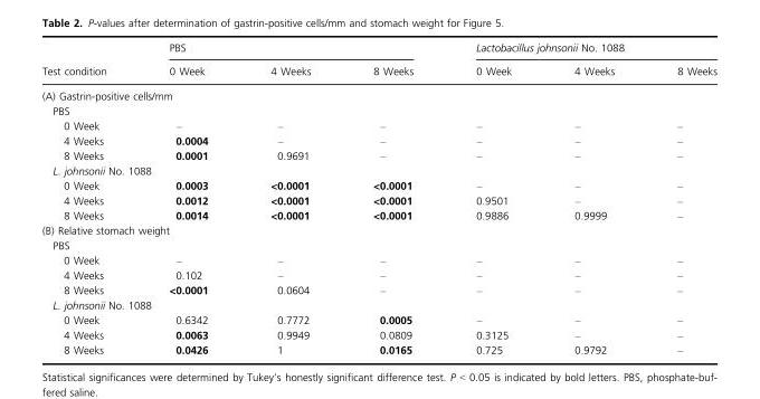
<table><thead><tr><td rowspan="2">Test condition</td><td colspan="3">PBS</td><td colspan="3">Lactobacillus johnsonii No. 1088</td></tr><tr><td>0 Week</td><td>4 Weeks</td><td>8 Weeks</td><td>0 Week</td><td>4 Weeks</td><td>8 Weeks</td></tr></thead><tbody><tr><td colspan="7">(A) Gastrin-positive cells/mm</td></tr><tr><td colspan="7">PBS</td></tr><tr><td>0 Week</td><td>–</td><td>–</td><td>–</td><td>–</td><td>–</td><td>–</td></tr><tr><td>4 Weeks</td><td>0.0004</td><td>–</td><td>–</td><td>–</td><td>–</td><td>–</td></tr><tr><td>8 Weeks</td><td>0.0001</td><td>0.9691</td><td>–</td><td>–</td><td>–</td><td>–</td></tr><tr><td colspan="7">L. johnsonii No. 1088</td></tr><tr><td>0 Week</td><td>0.0003</td><td>&lt;0.0001</td><td>&lt;0.0001</td><td>–</td><td>–</td><td>–</td></tr><tr><td>4 Weeks</td><td>0.0012</td><td>&lt;0.0001</td><td>&lt;0.0001</td><td>0.9501</td><td>–</td><td>–</td></tr><tr><td>8 Weeks</td><td>0.0014</td><td>&lt;0.0001</td><td>&lt;0.0001</td><td>0.9886</td><td>0.9999</td><td>–</td></tr><tr><td colspan="7">(B) Relative stomach weight</td></tr><tr><td colspan="7">PBS</td></tr><tr><td>0 Week</td><td>–</td><td>–</td><td>–</td><td>–</td><td>–</td><td>–</td></tr><tr><td>4 Weeks</td><td>0.102</td><td>–</td><td>–</td><td>–</td><td>–</td><td>–</td></tr><tr><td>8 Weeks</td><td>&lt;0.0001</td><td>0.0604</td><td>–</td><td>–</td><td>–</td><td>–</td></tr><tr><td colspan="7">L. johnsonii No. 1088</td></tr><tr><td>0 Week</td><td>0.6342</td><td>0.7772</td><td>0.0005</td><td>–</td><td>–</td><td>–</td></tr><tr><td>4 Weeks</td><td>0.0063</td><td>0.9949</td><td>0.0809</td><td>0.3125</td><td>–</td><td>–</td></tr><tr><td>8 Weeks</td><td>0.0426</td><td>1</td><td>0.0165</td><td>0.725</td><td>0.9792</td><td>–</td></tr></tbody></table>